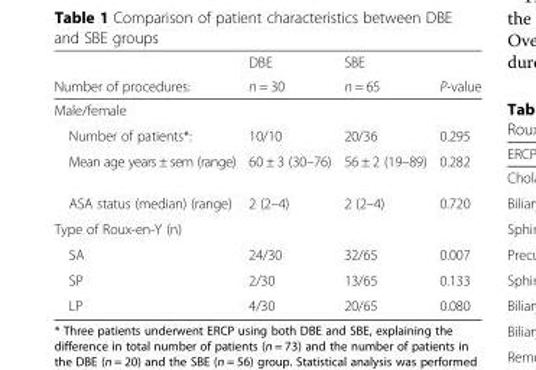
<table><thead><tr><td rowspan="2">Number of procedures:</td><td rowspan="2">DBE n = 30</td><td rowspan="2">SBE n = 65</td><td rowspan="2">P-value</td></tr><tr></tr></thead><tbody><tr><td colspan="4">Male/female</td></tr><tr><td>Number of patients*:</td><td>10/10</td><td>20/36</td><td>0.295</td></tr><tr><td>Mean age years ± sem (range)</td><td>60 ± 3 (30–76)</td><td>56 ± 2 (19–89)</td><td>0.282</td></tr><tr><td>ASA status (median) (range)</td><td>2 (2–4)</td><td>2 (2–4)</td><td>0.720</td></tr><tr><td colspan="4">Type of Roux-en-Y (n)</td></tr><tr><td>SA</td><td>24/30</td><td>32/65</td><td>0.007</td></tr><tr><td>SP</td><td>2/30</td><td>13/65</td><td>0.133</td></tr><tr><td>LP</td><td>4/30</td><td>20/65</td><td>0.080</td></tr></tbody></table>